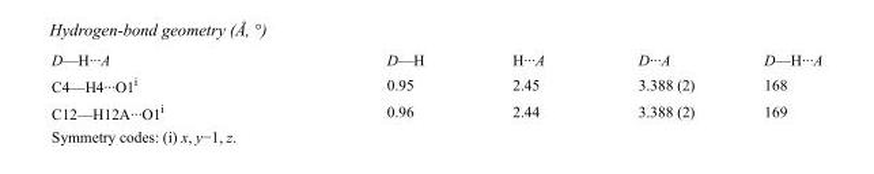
<table><tbody><tr><td>D—H···A</td><td>D—H</td><td>H···A</td><td>D···A</td><td>D—H···A</td></tr><tr><td>C4—H4···O1<sup>i</sup></td><td>0.95</td><td>2.45</td><td>3.388 (2)</td><td>168</td></tr><tr><td>C12—H12A···O1<sup>i</sup></td><td>0.96</td><td>2.44</td><td>3.388 (2)</td><td>169</td></tr></tbody></table>